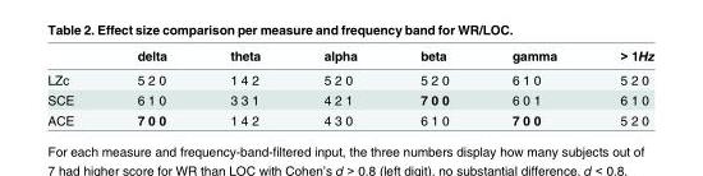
<table><thead><tr><td></td><td>delta</td><td>theta</td><td>alpha</td><td>beta</td><td>gamma</td><td>&gt; 1Hz</td></tr></thead><tbody><tr><td>LZc</td><td>5 2 0</td><td>1 4 2</td><td>5 2 0</td><td>5 2 0</td><td>6 1 0</td><td>5 2 0</td></tr><tr><td>SCE</td><td>6 1 0</td><td>3 3 1</td><td>4 2 1</td><td>7 0 0</td><td>6 0 1</td><td>6 1 0</td></tr><tr><td>ACE</td><td>7 0 0</td><td>1 4 2</td><td>4 3 0</td><td>6 1 0</td><td>7 0 0</td><td>5 2 0</td></tr></tbody></table>